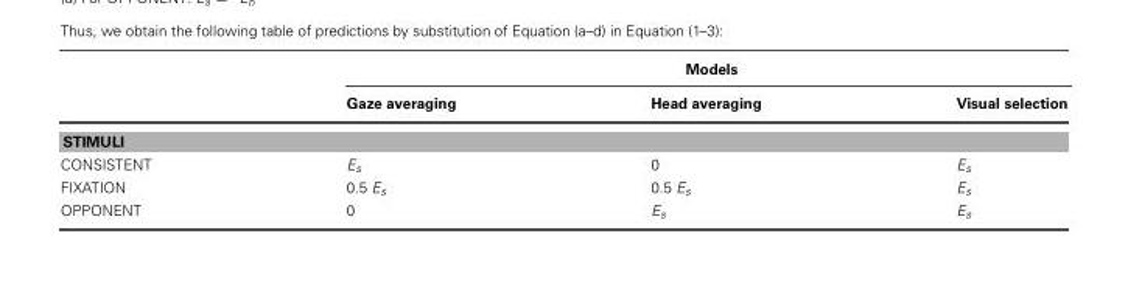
<table><thead><tr><td rowspan="2"></td><td colspan="3">Models</td></tr><tr><td>Gaze averaging</td><td>Head averaging</td><td>Visual selection</td></tr></thead><tbody><tr><td colspan="4">STIMULI</td></tr><tr><td>CONSISTENT</td><td>E<sub>s</sub></td><td>0</td><td>E<sub>s</sub></td></tr><tr><td>FIXATION</td><td>0.5 E<sub>s</sub></td><td>0.5 E<sub>s</sub></td><td>E<sub>s</sub></td></tr><tr><td>OPPONENT</td><td>0</td><td>E<sub>s</sub></td><td>E<sub>s</sub></td></tr></tbody></table>